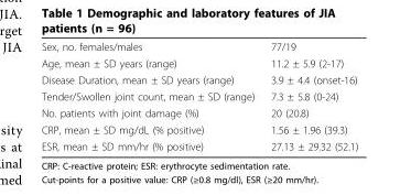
<table><tbody><tr><td>Sex, no. females/males</td><td>77/19</td></tr><tr><td>Age, mean ± SD years (range)</td><td>11.2 ± 5.9 (2-17)</td></tr><tr><td>Disease Duration, mean ± SD years (range)</td><td>3.9 ± 4.4 (onset-16)</td></tr><tr><td>Tender/Swollen joint count, mean ± SD (range)</td><td>7.3 ± 5.8 (0-24)</td></tr><tr><td>No. patients with joint damage (%)</td><td>20 (20.8)</td></tr><tr><td>CRP, mean ± SD mg/dL (% positive)</td><td>1.56 ± 1.96 (39.3)</td></tr><tr><td>ESR, mean ± SD mm/hr (% positive)</td><td>27.13 ± 29.32 (52.1)</td></tr></tbody></table>